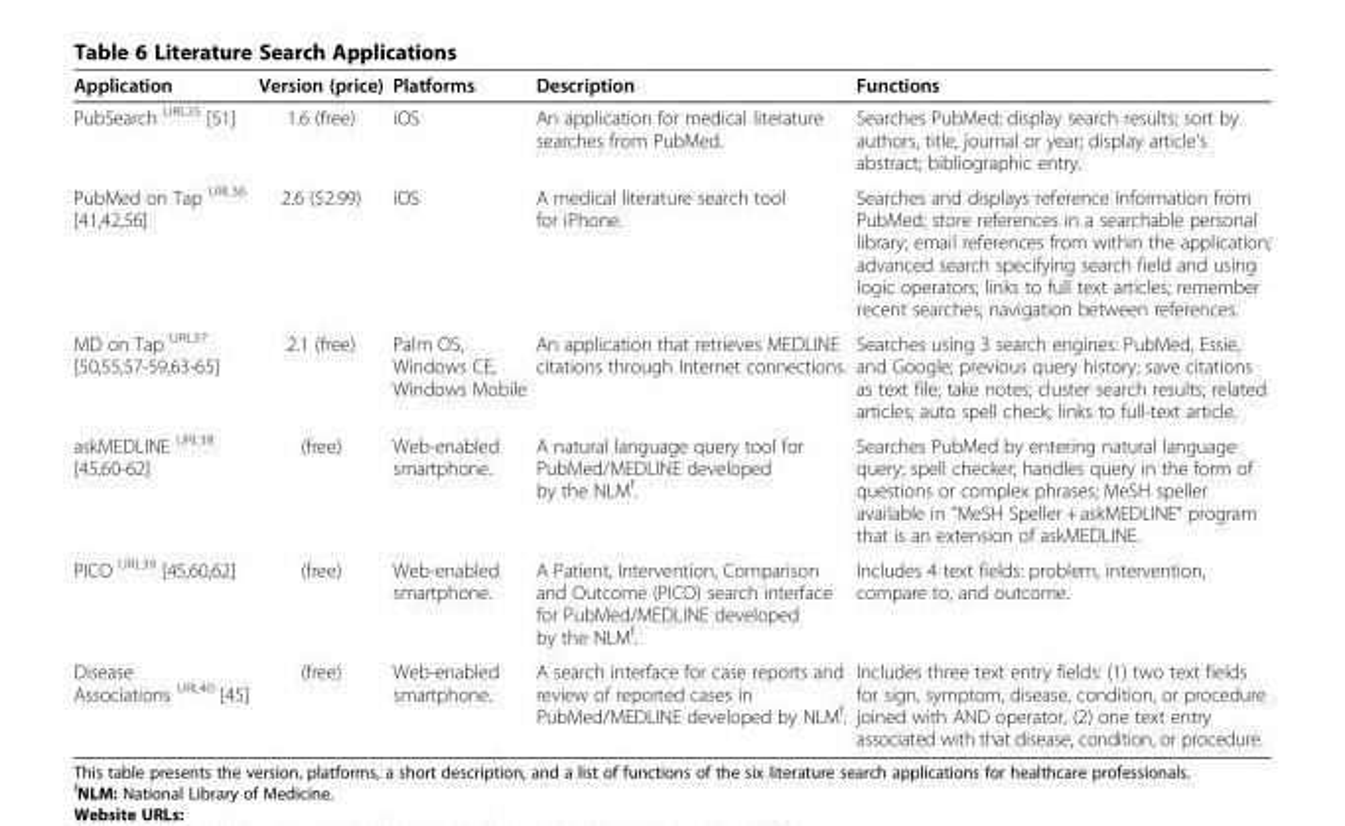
<table><thead><tr><td>Application</td><td>Version (price)</td><td>Platforms</td><td>Description</td><td>Functions</td></tr></thead><tbody><tr><td>PubSearch <sup>URL35</sup> [51]</td><td>1.6 (free)</td><td>iOS</td><td>An application for medical literature searches from PubMed.</td><td>Searches PubMed; display search results; sort by authors, title, journal or year; display article’s abstract; bibliographic entry.</td></tr><tr><td>PubMed on Tap <sup>URL36</sup> [41,42,56]</td><td>2.6 ($2.99)</td><td>iOS</td><td>A medical literature search tool for iPhone.</td><td>Searches and displays reference information from PubMed; store references in a searchable personal library; email references from within the application; advanced search specifying search field and using logic operators; links to full text articles; remember recent searches; navigation between references.</td></tr><tr><td>MD on Tap <sup>URL37</sup> [50,55,57-59,63-65]</td><td>2.1 (free)</td><td>Palm OS, Windows CE, Windows Mobile</td><td>An application that retrieves MEDLINE citations through Internet connections.</td><td>Searches using 3 search engines: PubMed, Essie, and Google; previous query history; save citations as text file; take notes; cluster search results; related articles; auto spell check; links to full-text article.</td></tr><tr><td>askMEDLINE <sup>URL38</sup> [45,60-62]</td><td>(free)</td><td>Web-enabled smartphone.</td><td>A natural language query tool for PubMed/MEDLINE developed by the NLM<sup>f</sup>.</td><td>Searches PubMed by entering natural language query; spell checker; handles query in the form of questions or complex phrases; MeSH speller available in “MeSH Speller + askMEDLINE” program that is an extension of askMEDLINE.</td></tr><tr><td>PICO <sup>URL39</sup> [45,60,62]</td><td>(free)</td><td>Web-enabled smartphone.</td><td>A Patient, Intervention, Comparison and Outcome (PICO) search interface for PubMed/MEDLINE developed by the NLM<sup>f</sup>.</td><td>Includes 4 text fields: problem, intervention, compare to, and outcome.</td></tr><tr><td>Disease Associations <sup>URL40</sup> [45]</td><td>(free)</td><td>Web-enabled smartphone.</td><td>A search interface for case reports and review of reported cases in PubMed/MEDLINE developed by NLM<sup>f</sup>.</td><td>Includes three text entry fields: (1) two text fields for sign, symptom, disease, condition, or procedure joined with AND operator, (2) one text entry associated with that disease, condition, or procedure.</td></tr></tbody></table>